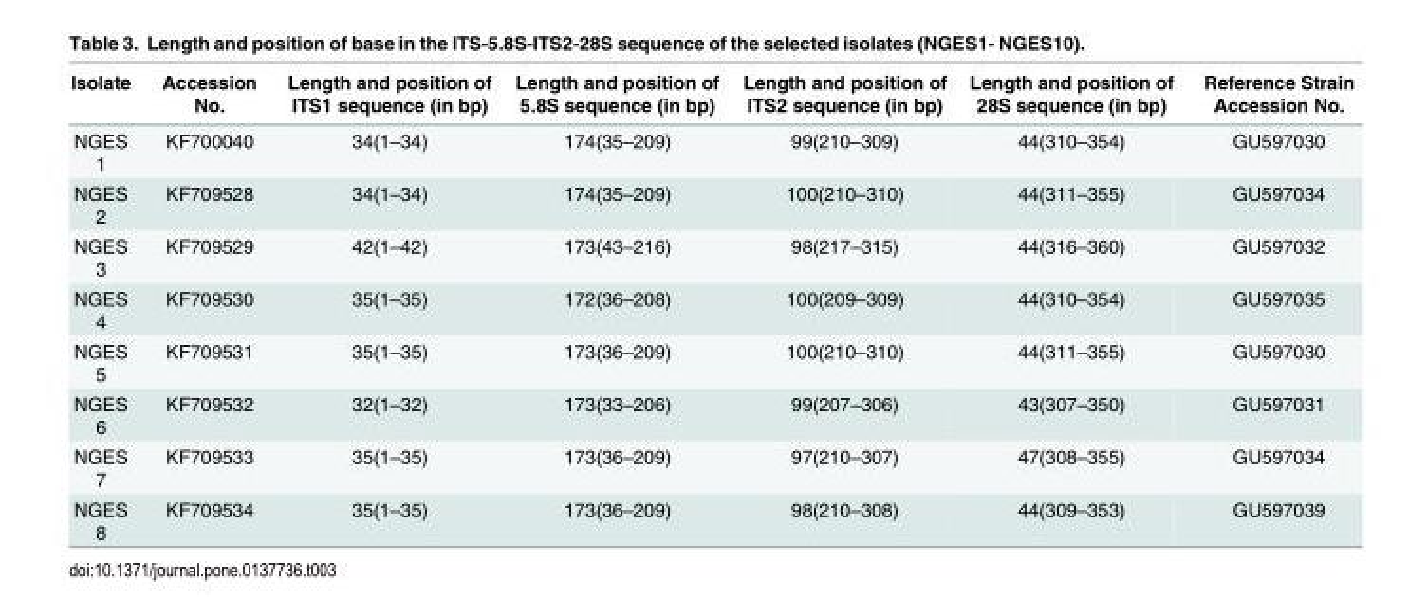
<table><thead><tr><td>Isolate</td><td>Accession No.</td><td>Length and position of ITS1 sequence (in bp)</td><td>Length and position of 5.8S sequence (in bp)</td><td>Length and position of ITS2 sequence (in bp)</td><td>Length and position of 28S sequence (in bp)</td><td>Reference Strain Accession No.</td></tr></thead><tbody><tr><td>NGES 1</td><td>KF700040</td><td>34(1–34)</td><td>174(35–209)</td><td>99(210–309)</td><td>44(310–354)</td><td>GU597030</td></tr><tr><td>NGES 2</td><td>KF709528</td><td>34(1–34)</td><td>174(35–209)</td><td>100(210–310)</td><td>44(311–355)</td><td>GU597034</td></tr><tr><td>NGES 3</td><td>KF709529</td><td>42(1–42)</td><td>173(43–216)</td><td>98(217–315)</td><td>44(316–360)</td><td>GU597032</td></tr><tr><td>NGES 4</td><td>KF709530</td><td>35(1–35)</td><td>172(36–208)</td><td>100(209–309)</td><td>44(310–354)</td><td>GU597035</td></tr><tr><td>NGES 5</td><td>KF709531</td><td>35(1–35)</td><td>173(36–209)</td><td>100(210–310)</td><td>44(311–355)</td><td>GU597030</td></tr><tr><td>NGES 6</td><td>KF709532</td><td>32(1–32)</td><td>173(33–206)</td><td>99(207–306)</td><td>43(307–350)</td><td>GU597031</td></tr><tr><td>NGES 7</td><td>KF709533</td><td>35(1–35)</td><td>173(36–209)</td><td>97(210–307)</td><td>47(308–355)</td><td>GU597034</td></tr><tr><td>NGES 8</td><td>KF709534</td><td>35(1–35)</td><td>173(36–209)</td><td>98(210–308)</td><td>44(309–353)</td><td>GU597039</td></tr></tbody></table>